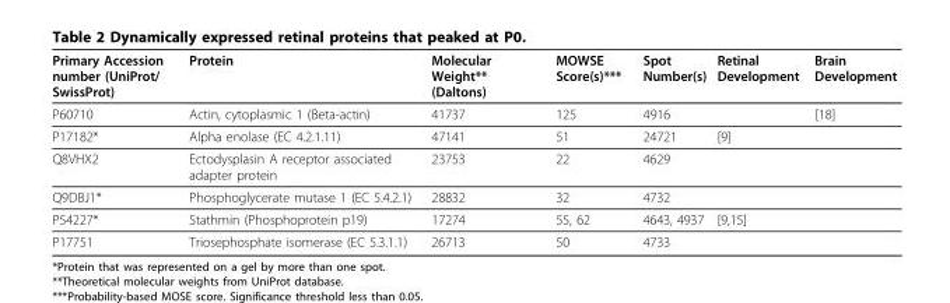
<table><thead><tr><td>Primary Accession number (UniProt/ SwissProt)</td><td>Protein</td><td>Molecular Weight** (Daltons)</td><td>MOWSE Score(s)***</td><td>Spot Number(s)</td><td>Retinal Development</td><td>Brain Development</td></tr></thead><tbody><tr><td>P60710</td><td>Actin, cytoplasmic 1 (Beta-actin)</td><td>41737</td><td>125</td><td>4916</td><td></td><td>[18]</td></tr><tr><td>P17182*</td><td>Alpha enolase (EC 4.2.1.11)</td><td>47141</td><td>51</td><td>24721</td><td>[9]</td><td></td></tr><tr><td>Q8VHX2</td><td>Ectodysplasin A receptor associated adapter protein</td><td>23753</td><td>22</td><td>4629</td><td></td><td></td></tr><tr><td>Q9DBJ1*</td><td>Phosphoglycerate mutase 1 (EC 5.4.2.1)</td><td>28832</td><td>32</td><td>4732</td><td></td><td></td></tr><tr><td>P54227*</td><td>Stathmin (Phosphoprotein p19)</td><td>17274</td><td>55, 62</td><td>4643, 4937</td><td>[9,15]</td><td></td></tr><tr><td>P17751</td><td>Triosephosphate isomerase (EC 5.3.1.1)</td><td>26713</td><td>50</td><td>4733</td><td></td><td></td></tr></tbody></table>